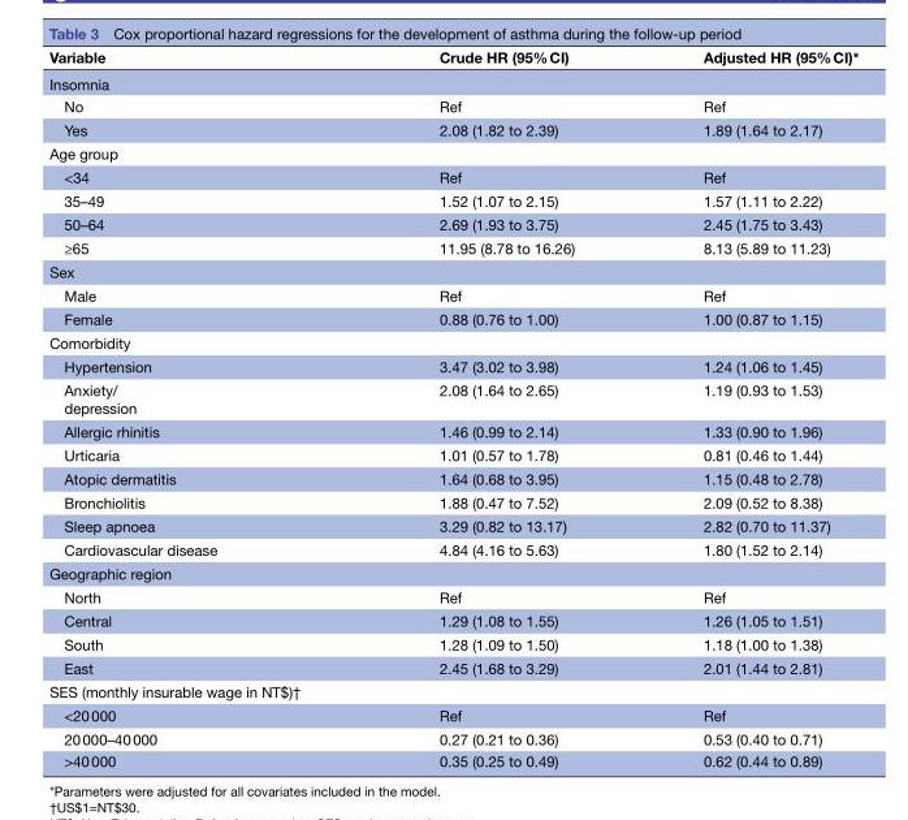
<table><thead><tr><td>Variable</td><td>Crude HR (95% CI)</td><td>Adjusted HR (95% CI)*</td></tr></thead><tbody><tr><td colspan="3">Insomnia</td></tr><tr><td>No</td><td>Ref</td><td>Ref</td></tr><tr><td>Yes</td><td>2.08 (1.82 to 2.39)</td><td>1.89 (1.64 to 2.17)</td></tr><tr><td colspan="3">Age group</td></tr><tr><td>&lt;34</td><td>Ref</td><td>Ref</td></tr><tr><td>35–49</td><td>1.52 (1.07 to 2.15)</td><td>1.57 (1.11 to 2.22)</td></tr><tr><td>50–64</td><td>2.69 (1.93 to 3.75)</td><td>2.45 (1.75 to 3.43)</td></tr><tr><td>≥65</td><td>11.95 (8.78 to 16.26)</td><td>8.13 (5.89 to 11.23)</td></tr><tr><td colspan="3">Sex</td></tr><tr><td>Male</td><td>Ref</td><td>Ref</td></tr><tr><td>Female</td><td>0.88 (0.76 to 1.00)</td><td>1.00 (0.87 to 1.15)</td></tr><tr><td colspan="3">Comorbidity</td></tr><tr><td>Hypertension</td><td>3.47 (3.02 to 3.98)</td><td>1.24 (1.06 to 1.45)</td></tr><tr><td>Anxiety/ depression</td><td>2.08 (1.64 to 2.65)</td><td>1.19 (0.93 to 1.53)</td></tr><tr><td>Allergic rhinitis</td><td>1.46 (0.99 to 2.14)</td><td>1.33 (0.90 to 1.96)</td></tr><tr><td>Urticaria</td><td>1.01 (0.57 to 1.78)</td><td>0.81 (0.46 to 1.44)</td></tr><tr><td>Atopic dermatitis</td><td>1.64 (0.68 to 3.95)</td><td>1.15 (0.48 to 2.78)</td></tr><tr><td>Bronchiolitis</td><td>1.88 (0.47 to 7.52)</td><td>2.09 (0.52 to 8.38)</td></tr><tr><td>Sleep apnoea</td><td>3.29 (0.82 to 13.17)</td><td>2.82 (0.70 to 11.37)</td></tr><tr><td>Cardiovascular disease</td><td>4.84 (4.16 to 5.63)</td><td>1.80 (1.52 to 2.14)</td></tr><tr><td colspan="3">Geographic region</td></tr><tr><td>North</td><td>Ref</td><td>Ref</td></tr><tr><td>Central</td><td>1.29 (1.08 to 1.55)</td><td>1.26 (1.05 to 1.51)</td></tr><tr><td>South</td><td>1.28 (1.09 to 1.50)</td><td>1.18 (1.00 to 1.38)</td></tr><tr><td>East</td><td>2.45 (1.68 to 3.29)</td><td>2.01 (1.44 to 2.81)</td></tr><tr><td colspan="3">SES (monthly insurable wage in NT$)†</td></tr><tr><td>&lt;20 000</td><td>Ref</td><td>Ref</td></tr><tr><td>20 000–40 000</td><td>0.27 (0.21 to 0.36)</td><td>0.53 (0.40 to 0.71)</td></tr><tr><td>&gt;40 000</td><td>0.35 (0.25 to 0.49)</td><td>0.62 (0.44 to 0.89)</td></tr></tbody></table>